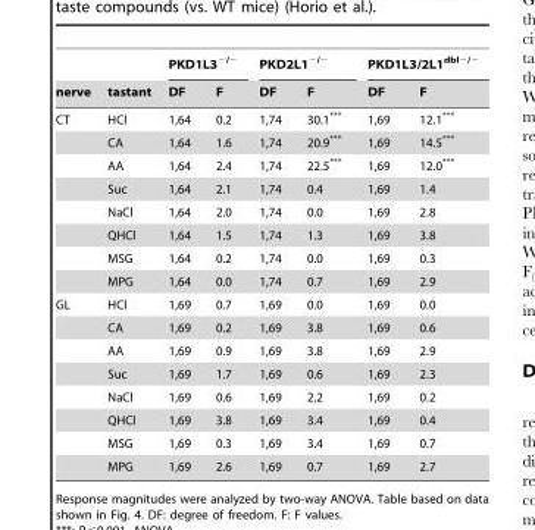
<table><thead><tr><td rowspan="2">nerve</td><td rowspan="2">tastant</td><td colspan="2">PKD1L3<sup>−/−</sup></td><td colspan="2">PKD2L1<sup>−/−</sup></td><td colspan="2">PKD1L3/2L1<sup>dbl−/−</sup></td></tr><tr><td>DF</td><td>F</td><td>DF</td><td>F</td><td>DF</td><td>F</td></tr></thead><tbody><tr><td rowspan="8">CT</td><td>HCl</td><td>1,64</td><td>0.2</td><td>1,74</td><td>30.1***</td><td>1,69</td><td>12.1***</td></tr><tr><td>CA</td><td>1,64</td><td>1.6</td><td>1,74</td><td>20.9***</td><td>1,69</td><td>14.5***</td></tr><tr><td>AA</td><td>1,64</td><td>2.4</td><td>1,74</td><td>22.5***</td><td>1,69</td><td>12.0***</td></tr><tr><td>Suc</td><td>1,64</td><td>2.1</td><td>1,74</td><td>0.4</td><td>1,69</td><td>1.4</td></tr><tr><td>NaCl</td><td>1,64</td><td>2.0</td><td>1,74</td><td>0.0</td><td>1,69</td><td>2.8</td></tr><tr><td>QHCl</td><td>1,64</td><td>1.5</td><td>1,74</td><td>1.3</td><td>1,69</td><td>3.8</td></tr><tr><td>MSG</td><td>1,64</td><td>0.2</td><td>1,74</td><td>0.0</td><td>1,69</td><td>0.3</td></tr><tr><td>MPG</td><td>1,64</td><td>0.0</td><td>1,74</td><td>0.7</td><td>1,69</td><td>2.9</td></tr><tr><td rowspan="8">GL</td><td>HCl</td><td>1,69</td><td>0.7</td><td>1,69</td><td>0.0</td><td>1,69</td><td>0.0</td></tr><tr><td>CA</td><td>1,69</td><td>0.2</td><td>1,69</td><td>3.8</td><td>1,69</td><td>0.6</td></tr><tr><td>AA</td><td>1,69</td><td>0.9</td><td>1,69</td><td>3.8</td><td>1,69</td><td>2.9</td></tr><tr><td>Suc</td><td>1,69</td><td>1.7</td><td>1,69</td><td>0.6</td><td>1,69</td><td>2.3</td></tr><tr><td>NaCl</td><td>1,69</td><td>0.6</td><td>1,69</td><td>2.2</td><td>1,69</td><td>0.2</td></tr><tr><td>QHCl</td><td>1,69</td><td>3.8</td><td>1,69</td><td>3.4</td><td>1,69</td><td>0.4</td></tr><tr><td>MSG</td><td>1,69</td><td>0.3</td><td>1,69</td><td>3.4</td><td>1,69</td><td>0.7</td></tr><tr><td>MPG</td><td>1,69</td><td>2.6</td><td>1,69</td><td>0.7</td><td>1,69</td><td>2.7</td></tr></tbody></table>